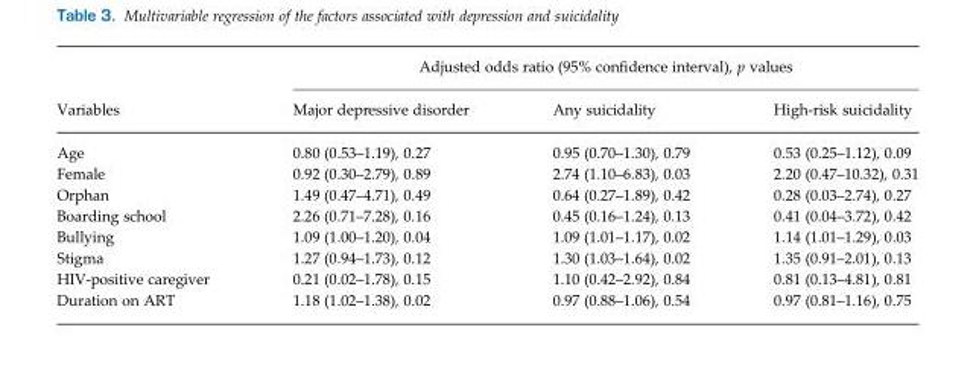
<table><thead><tr><td rowspan="2">Variables</td><td colspan="3">Adjusted odds ratio (95% confidence interval), p values</td></tr><tr><td>Major depressive disorder</td><td>Any suicidality</td><td>High-risk suicidality</td></tr></thead><tbody><tr><td>Age</td><td>0.80 (0.53–1.19), 0.27</td><td>0.95 (0.70–1.30), 0.79</td><td>0.53 (0.25–1.12), 0.09</td></tr><tr><td>Female</td><td>0.92 (0.30–2.79), 0.89</td><td>2.74 (1.10–6.83), 0.03</td><td>2.20 (0.47–10.32), 0.31</td></tr><tr><td>Orphan</td><td>1.49 (0.47–4.71), 0.49</td><td>0.64 (0.27–1.89), 0.42</td><td>0.28 (0.03–2.74), 0.27</td></tr><tr><td>Boarding school</td><td>2.26 (0.71–7.28), 0.16</td><td>0.45 (0.16–1.24), 0.13</td><td>0.41 (0.04–3.72), 0.42</td></tr><tr><td>Bullying</td><td>1.09 (1.00–1.20), 0.04</td><td>1.09 (1.01–1.17), 0.02</td><td>1.14 (1.01–1.29), 0.03</td></tr><tr><td>Stigma</td><td>1.27 (0.94–1.73), 0.12</td><td>1.30 (1.03–1.64), 0.02</td><td>1.35 (0.91–2.01), 0.13</td></tr><tr><td>HIV-positive caregiver</td><td>0.21 (0.02–1.78), 0.15</td><td>1.10 (0.42–2.92), 0.84</td><td>0.81 (0.13–4.81), 0.81</td></tr><tr><td>Duration on ART</td><td>1.18 (1.02–1.38), 0.02</td><td>0.97 (0.88–1.06), 0.54</td><td>0.97 (0.81–1.16), 0.75</td></tr></tbody></table>